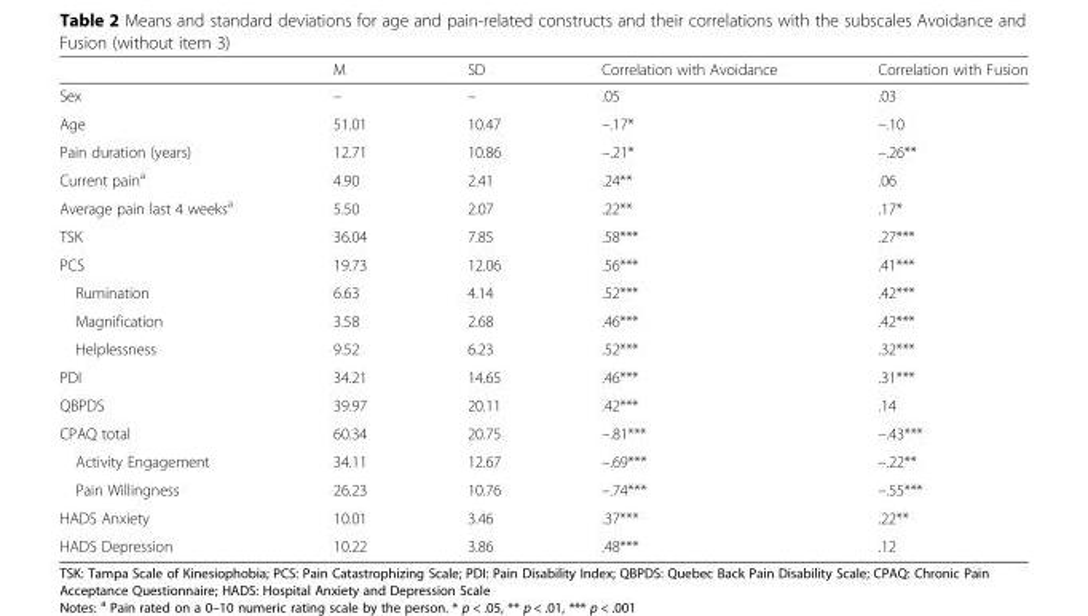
<table><thead><tr><td></td><td>M</td><td>SD</td><td>Correlation with Avoidance</td><td>Correlation with Fusion</td></tr></thead><tbody><tr><td>Sex</td><td>–</td><td>–</td><td>.05</td><td>.03</td></tr><tr><td>Age</td><td>51.01</td><td>10.47</td><td>–.17*</td><td>–.10</td></tr><tr><td>Pain duration (years)</td><td>12.71</td><td>10.86</td><td>–.21*</td><td>–.26**</td></tr><tr><td>Current pain<sup>a</sup></td><td>4.90</td><td>2.41</td><td>.24**</td><td>.06</td></tr><tr><td>Average pain last 4 weeks<sup>a</sup></td><td>5.50</td><td>2.07</td><td>.22**</td><td>.17*</td></tr><tr><td>TSK</td><td>36.04</td><td>7.85</td><td>.58***</td><td>.27***</td></tr><tr><td>PCS</td><td>19.73</td><td>12.06</td><td>.56***</td><td>.41***</td></tr><tr><td>Rumination</td><td>6.63</td><td>4.14</td><td>.52***</td><td>.42***</td></tr><tr><td>Magnification</td><td>3.58</td><td>2.68</td><td>.46***</td><td>.42***</td></tr><tr><td>Helplessness</td><td>9.52</td><td>6.23</td><td>.52***</td><td>.32***</td></tr><tr><td>PDI</td><td>34.21</td><td>14.65</td><td>.46***</td><td>.31***</td></tr><tr><td>QBPDS</td><td>39.97</td><td>20.11</td><td>.42***</td><td>.14</td></tr><tr><td>CPAQ total</td><td>60.34</td><td>20.75</td><td>–.81***</td><td>–.43***</td></tr><tr><td>Activity Engagement</td><td>34.11</td><td>12.67</td><td>–.69***</td><td>–.22**</td></tr><tr><td>Pain Willingness</td><td>26.23</td><td>10.76</td><td>–.74***</td><td>–.55***</td></tr><tr><td>HADS Anxiety</td><td>10.01</td><td>3.46</td><td>.37***</td><td>.22**</td></tr><tr><td>HADS Depression</td><td>10.22</td><td>3.86</td><td>.48***</td><td>.12</td></tr></tbody></table>